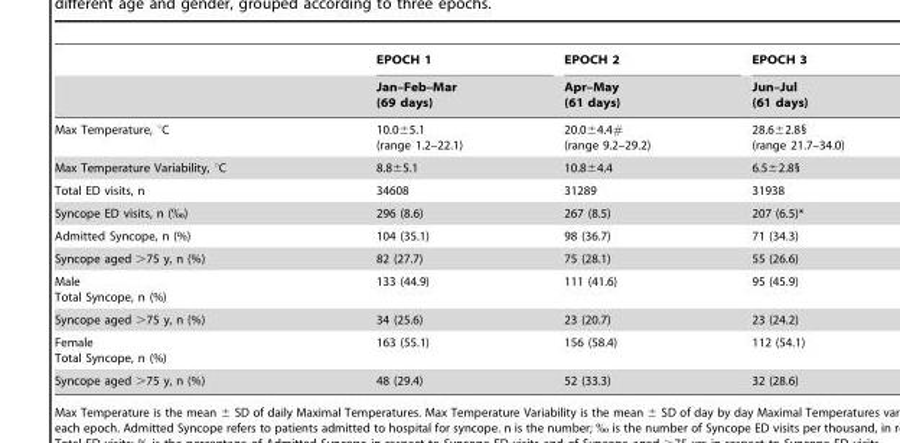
<table><thead><tr><td rowspan="2"></td><td rowspan="2">EPOCH 1 Jan–Feb–Mar (69 days)</td><td rowspan="2">EPOCH 2 Apr–May (61 days)</td><td rowspan="2">EPOCH 3 Jun–Jul (61 days)</td></tr><tr></tr></thead><tbody><tr><td>Max Temperature, °C</td><td>10.0±5.1 (range 1.2–22.1)</td><td>20.0±4.4# (range 9.2–29.2)</td><td>28.6±2.8§ (range 21.7–34.0)</td></tr><tr><td>Max Temperature Variability, °C</td><td>8.8±5.1</td><td>10.8±4.4</td><td>6.5±2.8§</td></tr><tr><td>Total ED visits, n</td><td>34608</td><td>31289</td><td>31938</td></tr><tr><td>Syncope ED visits, n (‰)</td><td>296 (8.6)</td><td>267 (8.5)</td><td>207 (6.5)*</td></tr><tr><td>Admitted Syncope, n (%)</td><td>104 (35.1)</td><td>98 (36.7)</td><td>71 (34.3)</td></tr><tr><td>Syncope aged &gt;75 y, n (%)</td><td>82 (27.7)</td><td>75 (28.1)</td><td>55 (26.6)</td></tr><tr><td>Male Total Syncope, n (%)</td><td>133 (44.9)</td><td>111 (41.6)</td><td>95 (45.9)</td></tr><tr><td>Syncope aged &gt;75 y, n (%)</td><td>34 (25.6)</td><td>23 (20.7)</td><td>23 (24.2)</td></tr><tr><td>Female Total Syncope, n (%)</td><td>163 (55.1)</td><td>156 (58.4)</td><td>112 (54.1)</td></tr><tr><td>Syncope aged &gt;75 y, n (%)</td><td>48 (29.4)</td><td>52 (33.3)</td><td>32 (28.6)</td></tr></tbody></table>